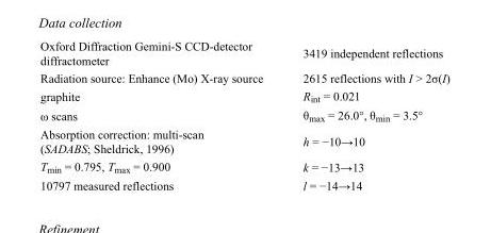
<table><tbody><tr><td>Oxford Diffraction Gemini-S CCD-detector diffractometer</td><td>3419 independent reflections</td></tr><tr><td>Radiation source: Enhance (Mo) X-ray source</td><td>2615 reflections with I &gt; 2σ(I)</td></tr><tr><td>graphite</td><td>R<sub>int</sub> = 0.021</td></tr><tr><td>ω scans</td><td>θ<sub>max</sub> = 26.0°, θ<sub>min</sub> = 3.5°</td></tr><tr><td>Absorption correction: multi-scan (SADABS; Sheldrick, 1996)</td><td>h = −10→10</td></tr><tr><td>T<sub>min</sub> = 0.795, T<sub>max</sub> = 0.900</td><td>k = −13→13</td></tr><tr><td>10797 measured reflections</td><td>l = −14→14</td></tr></tbody></table>